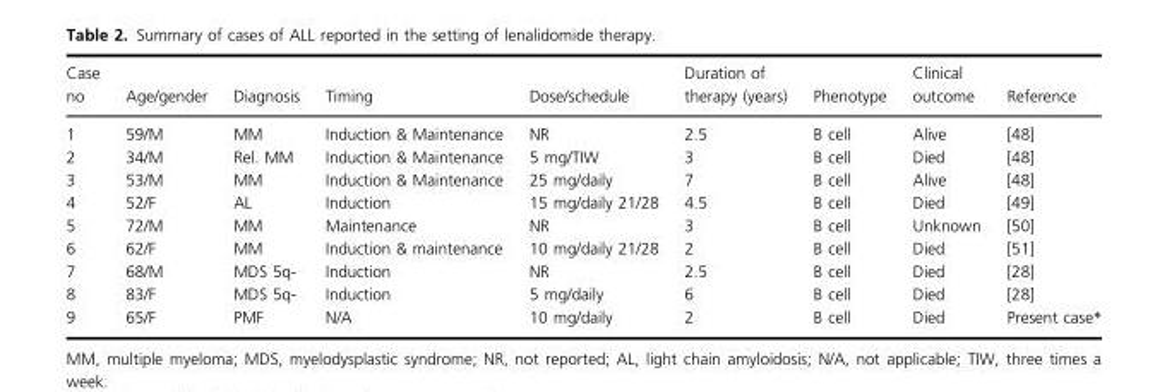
<table><thead><tr><td>Case no</td><td>Age/gender</td><td>Diagnosis</td><td>Timing</td><td>Dose/schedule</td><td>Duration of therapy (years)</td><td>Phenotype</td><td>Clinical outcome</td><td>Reference</td></tr></thead><tbody><tr><td>1</td><td>59/M</td><td>MM</td><td>Induction &amp; Maintenance</td><td>NR</td><td>2.5</td><td>B cell</td><td>Alive</td><td>[48]</td></tr><tr><td>2</td><td>34/M</td><td>Rel. MM</td><td>Induction &amp; Maintenance</td><td>5 mg/TIW</td><td>3</td><td>B cell</td><td>Died</td><td>[48]</td></tr><tr><td>3</td><td>53/M</td><td>MM</td><td>Induction &amp; Maintenance</td><td>25 mg/daily</td><td>7</td><td>B cell</td><td>Alive</td><td>[48]</td></tr><tr><td>4</td><td>52/F</td><td>AL</td><td>Induction</td><td>15 mg/daily 21/28</td><td>4.5</td><td>B cell</td><td>Died</td><td>[49]</td></tr><tr><td>5</td><td>72/M</td><td>MM</td><td>Maintenance</td><td>NR</td><td>3</td><td>B cell</td><td>Unknown</td><td>[50]</td></tr><tr><td>6</td><td>62/F</td><td>MM</td><td>Induction &amp; maintenance</td><td>10 mg/daily 21/28</td><td>2</td><td>B cell</td><td>Died</td><td>[51]</td></tr><tr><td>7</td><td>68/M</td><td>MDS 5q-</td><td>Induction</td><td>NR</td><td>2.5</td><td>B cell</td><td>Died</td><td>[28]</td></tr><tr><td>8</td><td>83/F</td><td>MDS 5q-</td><td>Induction</td><td>5 mg/daily</td><td>6</td><td>B cell</td><td>Died</td><td>[28]</td></tr><tr><td>9</td><td>65/F</td><td>PMF</td><td>N/A</td><td>10 mg/daily</td><td>2</td><td>B cell</td><td>Died</td><td>Present case*</td></tr></tbody></table>